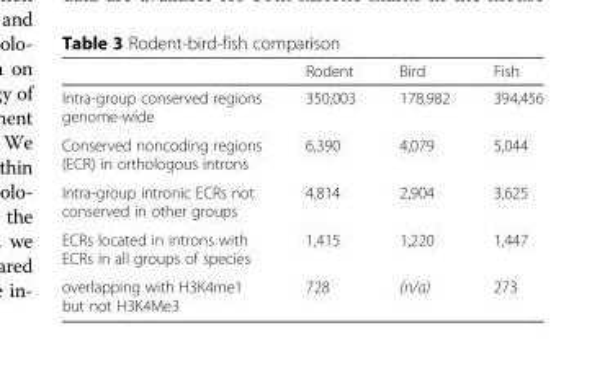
<table><thead><tr><td></td><td>Rodent</td><td>Bird</td><td>Fish</td></tr></thead><tbody><tr><td>Intra-group conserved regions genome-wide</td><td>350,003</td><td>178,982</td><td>394,456</td></tr><tr><td>Conserved noncoding regions (ECR) in orthologous introns</td><td>6,390</td><td>4,079</td><td>5,044</td></tr><tr><td>Intra-group intronic ECRs not conserved in other groups</td><td>4,814</td><td>2,904</td><td>3,625</td></tr><tr><td>ECRs located in introns with ECRs in all groups of species</td><td>1,415</td><td>1,220</td><td>1,447</td></tr><tr><td>overlapping with H3K4me1 but not H3K4Me3</td><td>728</td><td>(n/a)</td><td>273</td></tr></tbody></table>